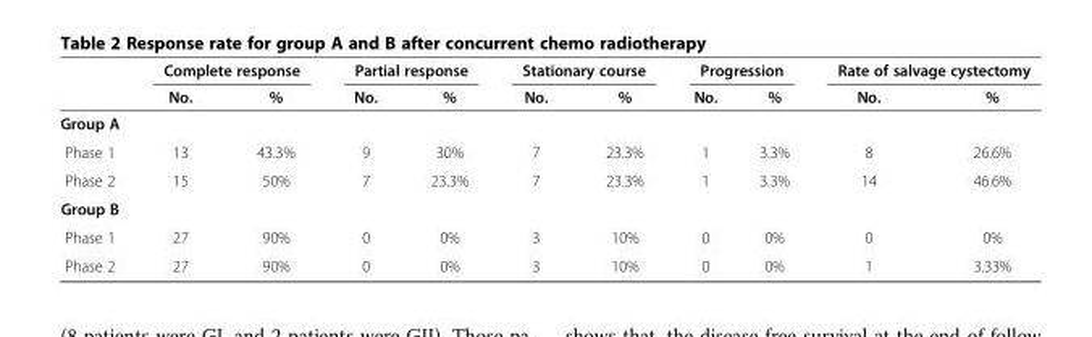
<table><thead><tr><td rowspan="2"></td><td colspan="2">Complete response</td><td colspan="2">Partial response</td><td colspan="2">Stationary course</td><td colspan="2">Progression</td><td colspan="2">Rate of salvage cystectomy</td></tr><tr><td>No.</td><td>%</td><td>No.</td><td>%</td><td>No.</td><td>%</td><td>No.</td><td>%</td><td>No.</td><td>%</td></tr></thead><tbody><tr><td colspan="11">Group A</td></tr><tr><td>Phase 1</td><td>13</td><td>43.3%</td><td>9</td><td>30%</td><td>7</td><td>23.3%</td><td>1</td><td>3.3%</td><td>8</td><td>26.6%</td></tr><tr><td>Phase 2</td><td>15</td><td>50%</td><td>7</td><td>23.3%</td><td>7</td><td>23.3%</td><td>1</td><td>3.3%</td><td>14</td><td>46.6%</td></tr><tr><td colspan="11">Group B</td></tr><tr><td>Phase 1</td><td>27</td><td>90%</td><td>0</td><td>0%</td><td>3</td><td>10%</td><td>0</td><td>0%</td><td>0</td><td>0%</td></tr><tr><td>Phase 2</td><td>27</td><td>90%</td><td>0</td><td>0%</td><td>3</td><td>10%</td><td>0</td><td>0%</td><td>1</td><td>3.33%</td></tr></tbody></table>